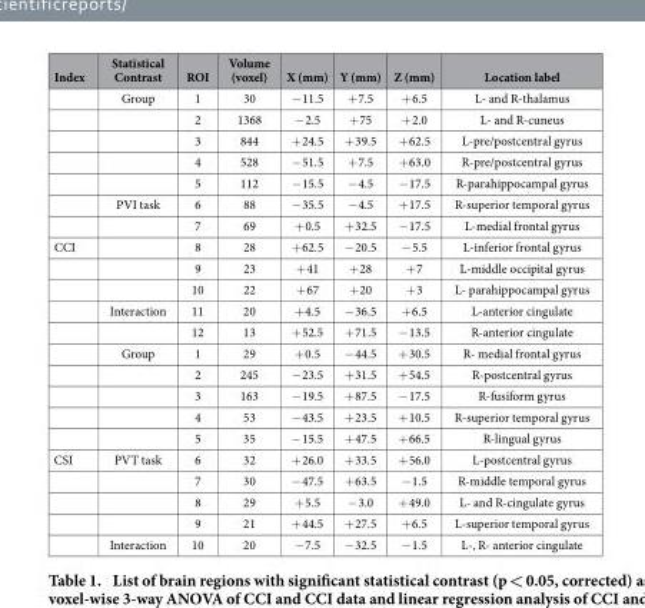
<table><thead><tr><td>Index</td><td>Statistical Contrast</td><td>ROI</td><td>Volume (voxel)</td><td>X (mm)</td><td>Y (mm)</td><td>Z (mm)</td><td>Location label</td></tr></thead><tbody><tr><td></td><td>Group</td><td>1</td><td>30</td><td>− 11.5</td><td>+ 7.5</td><td>+ 6.5</td><td>L- and R-thalamus</td></tr><tr><td></td><td></td><td>2</td><td>1368</td><td>− 2.5</td><td>+ 75</td><td>+ 2.0</td><td>L- and R-cuneus</td></tr><tr><td></td><td></td><td>3</td><td>844</td><td>+ 24.5</td><td>+ 39.5</td><td>+ 62.5</td><td>L-pre/postcentral gyrus</td></tr><tr><td></td><td></td><td>4</td><td>528</td><td>− 51.5</td><td>+ 7.5</td><td>+ 63.0</td><td>R-pre/postcentral gyrus</td></tr><tr><td></td><td></td><td>5</td><td>112</td><td>− 15.5</td><td>− 4.5</td><td>− 17.5</td><td>R-parahippocampal gyrus</td></tr><tr><td></td><td>PVI task</td><td>6</td><td>88</td><td>− 35.5</td><td>− 4.5</td><td>+ 17.5</td><td>R-superior temporal gyrus</td></tr><tr><td></td><td></td><td>7</td><td>69</td><td>+ 0.5</td><td>+ 32.5</td><td>− 17.5</td><td>L-medial frontal gyrus</td></tr><tr><td rowspan="10">CCI</td><td></td><td>8</td><td>28</td><td>+ 62.5</td><td>− 20.5</td><td>− 5.5</td><td>L-inferior frontal gyrus</td></tr><tr><td></td><td>9</td><td>23</td><td>+ 41</td><td>+ 28</td><td>+ 7</td><td>L-middle occipital gyrus</td></tr><tr><td></td><td>10</td><td>22</td><td>+ 67</td><td>+ 20</td><td>+ 3</td><td>L- parahippocampal gyrus</td></tr><tr><td>Interaction</td><td>11</td><td>20</td><td>+ 4.5</td><td>− 36.5</td><td>+ 6.5</td><td>L-anterior cingulate</td></tr><tr><td></td><td>12</td><td>13</td><td>+ 52.5</td><td>+ 71.5</td><td>− 13.5</td><td>R-anterior cingulate</td></tr><tr><td>Group</td><td>1</td><td>29</td><td>+ 0.5</td><td>− 44.5</td><td>+ 30.5</td><td>R- medial frontal gyrus</td></tr><tr><td></td><td>2</td><td>245</td><td>− 23.5</td><td>+ 31.5</td><td>+ 54.5</td><td>R-postcentral gyrus</td></tr><tr><td></td><td>3</td><td>163</td><td>− 19.5</td><td>+ 87.5</td><td>− 17.5</td><td>R-fusiform gyrus</td></tr><tr><td></td><td>4</td><td>53</td><td>− 43.5</td><td>+ 23.5</td><td>+ 10.5</td><td>R-superior temporal gyrus</td></tr><tr><td></td><td>5</td><td>35</td><td>− 15.5</td><td>+ 47.5</td><td>+ 66.5</td><td>R-lingual gyrus</td></tr><tr><td rowspan="5">CSI</td><td>PVT task</td><td>6</td><td>32</td><td>+ 26.0</td><td>+ 33.5</td><td>+ 56.0</td><td>L-postcentral gyrus</td></tr><tr><td></td><td>7</td><td>30</td><td>− 47.5</td><td>+ 63.5</td><td>− 1.5</td><td>R-middle temporal gyrus</td></tr><tr><td></td><td>8</td><td>29</td><td>+ 5.5</td><td>− 3.0</td><td>+ 49.0</td><td>L- and R-cingulate gyrus</td></tr><tr><td></td><td>9</td><td>21</td><td>+ 44.5</td><td>+ 27.5</td><td>+ 6.5</td><td>L-superior temporal gyrus</td></tr><tr><td>Interaction</td><td>10</td><td>20</td><td>− 7.5</td><td>− 32.5</td><td>− 1.5</td><td>L-, R- anterior cingulate</td></tr></tbody></table>